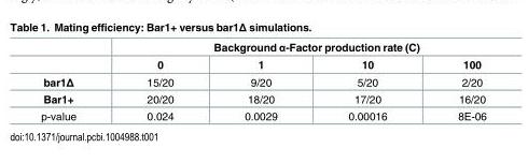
<table><thead><tr><td rowspan="2"></td><td colspan="4">Background α-Factor production rate (C)</td></tr><tr><td>0</td><td>1</td><td>10</td><td>100</td></tr></thead><tbody><tr><td>bar1Δ</td><td>15/20</td><td>9/20</td><td>5/20</td><td>2/20</td></tr><tr><td>Bar1+</td><td>20/20</td><td>18/20</td><td>17/20</td><td>16/20</td></tr><tr><td>p-value</td><td>0.024</td><td>0.0029</td><td>0.00016</td><td>8E-06</td></tr></tbody></table>